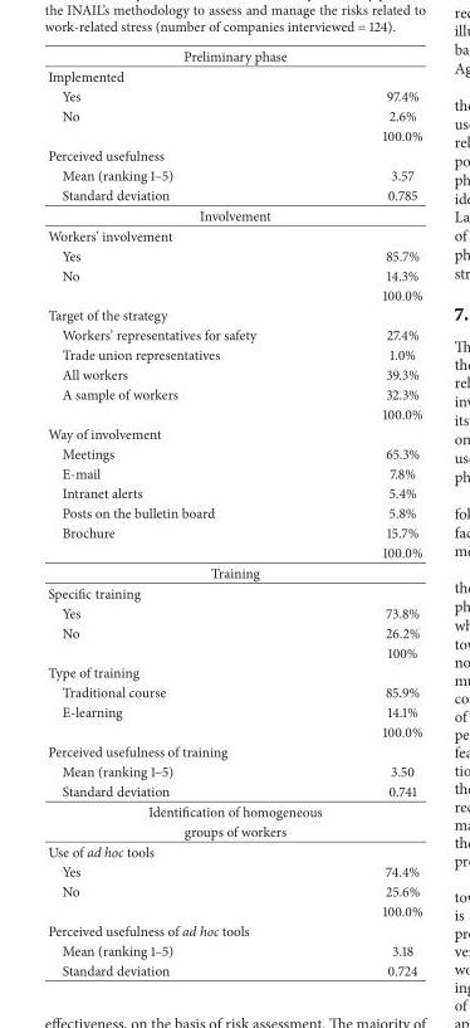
<table><thead><tr><td colspan="2">Preliminary phase</td></tr><tr><td>Implemented</td><td></td></tr></thead><tbody><tr><td>Yes</td><td>97.4%</td></tr><tr><td rowspan="2">No</td><td>2.6%</td></tr><tr><td>100.0%</td></tr><tr><td colspan="2">Perceived usefulness</td></tr><tr><td>Mean (ranking 1–5)</td><td>3.57</td></tr><tr><td>Standard deviation</td><td>0.785</td></tr><tr><td colspan="2">Involvement</td></tr><tr><td colspan="2">Workers’ involvement</td></tr><tr><td>Yes</td><td>85.7%</td></tr><tr><td rowspan="2">No</td><td>14.3%</td></tr><tr><td>100.0%</td></tr><tr><td colspan="2">Target of the strategy</td></tr><tr><td>Workers’ representatives for safety</td><td>27.4%</td></tr><tr><td>Trade union representatives</td><td>1.0%</td></tr><tr><td>All workers</td><td>39.3%</td></tr><tr><td rowspan="2">A sample of workers</td><td>32.3%</td></tr><tr><td>100.0%</td></tr><tr><td colspan="2">Way of involvement</td></tr><tr><td>Meetings</td><td>65.3%</td></tr><tr><td>E-mail</td><td>7.8%</td></tr><tr><td>Intranet alerts</td><td>5.4%</td></tr><tr><td>Posts on the bulletin board</td><td>5.8%</td></tr><tr><td rowspan="2">Brochure</td><td>15.7%</td></tr><tr><td>100.0%</td></tr><tr><td colspan="2">Training</td></tr><tr><td colspan="2">Specific training</td></tr><tr><td>Yes</td><td>73.8%</td></tr><tr><td rowspan="2">No</td><td>26.2%</td></tr><tr><td>100%</td></tr><tr><td colspan="2">Type of training</td></tr><tr><td>Traditional course</td><td>85.9%</td></tr><tr><td rowspan="2">E-learning</td><td>14.1%</td></tr><tr><td>100.0%</td></tr><tr><td colspan="2">Perceived usefulness of training</td></tr><tr><td>Mean (ranking 1–5)</td><td>3.50</td></tr><tr><td>Standard deviation</td><td>0.741</td></tr><tr><td colspan="2">Identification of homogeneous</td></tr><tr><td colspan="2">groups of workers</td></tr><tr><td colspan="2">Use of ad hoc tools</td></tr><tr><td>Yes</td><td>74.4%</td></tr><tr><td rowspan="2">No</td><td>25.6%</td></tr><tr><td>100.0%</td></tr><tr><td colspan="2">Perceived usefulness of ad hoc tools</td></tr><tr><td>Mean (ranking 1–5)</td><td>3.18</td></tr><tr><td>Standard deviation</td><td>0.724</td></tr></tbody></table>